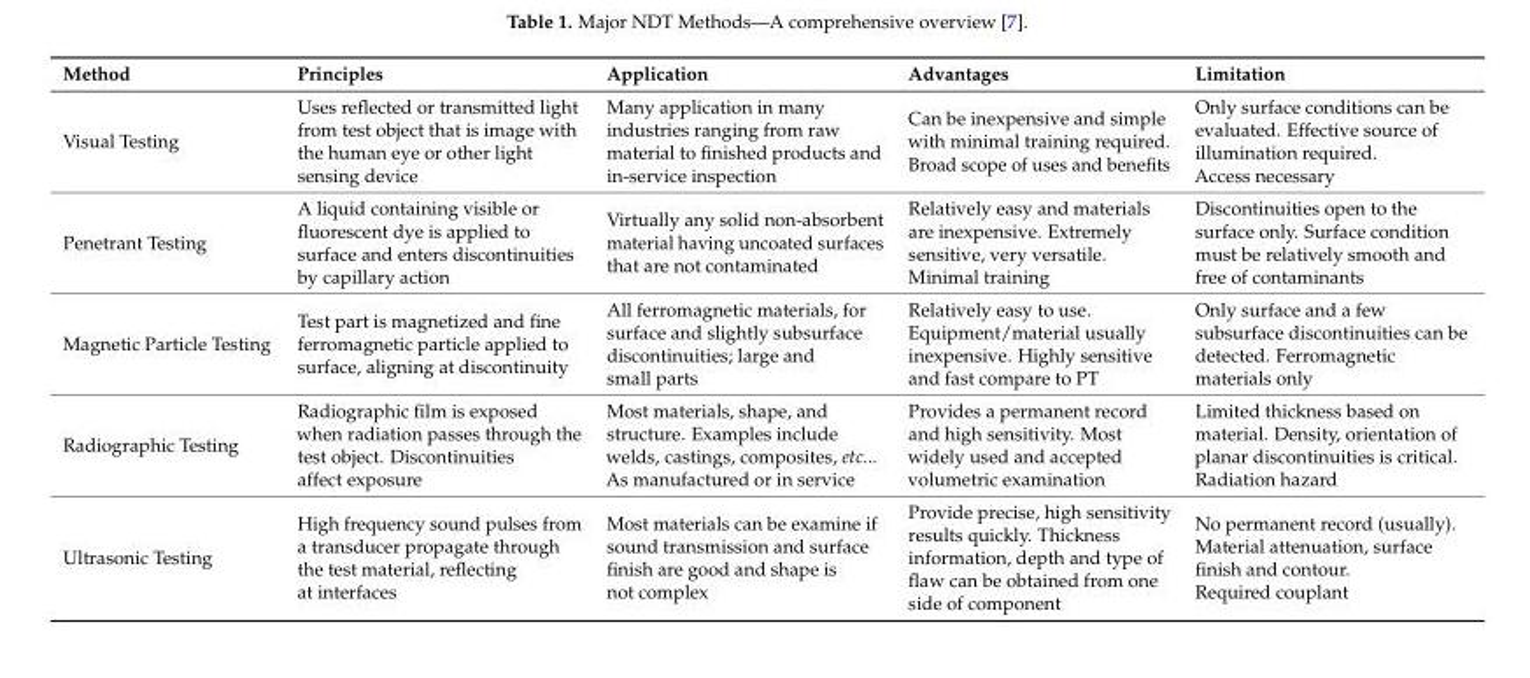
<table><thead><tr><td>Method</td><td>Principles</td><td>Application</td><td>Advantages</td><td>Limitation</td></tr></thead><tbody><tr><td>Visual Testing</td><td>Uses reflected or transmitted light from test object that is image with the human eye or other light sensing device</td><td>Many application in many industries ranging from raw material to finished products and in-service inspection</td><td>Can be inexpensive and simple with minimal training required. Broad scope of uses and benefits</td><td>Only surface conditions can be evaluated. Effective source of illumination required. Access necessary</td></tr><tr><td>Penetrant Testing</td><td>A liquid containing visible or fluorescent dye is applied to surface and enters discontinuities by capillary action</td><td>Virtually any solid non-absorbent material having uncoated surfaces that are not contaminated</td><td>Relatively easy and materials are inexpensive. Extremely sensitive, very versatile. Minimal training</td><td>Discontinuities open to the surface only. Surface condition must be relatively smooth and free of contaminants</td></tr><tr><td>Magnetic Particle Testing</td><td>Test part is magnetized and fine ferromagnetic particle applied to surface, aligning at discontinuity</td><td>All ferromagnetic materials, for surface and slightly subsurface discontinuities; large and small parts</td><td>Relatively easy to use. Equipment/material usually inexpensive. Highly sensitive and fast compare to PT</td><td>Only surface and a few subsurface discontinuities can be detected. Ferromagnetic materials only</td></tr><tr><td>Radiographic Testing</td><td>Radiographic film is exposed when radiation passes through the test object. Discontinuities affect exposure</td><td>Most materials, shape, and structure. Examples include welds, castings, composites, etc... As manufactured or in service</td><td>Provides a permanent record and high sensitivity. Most widely used and accepted volumetric examination</td><td>Limited thickness based on material. Density, orientation of planar discontinuities is critical. Radiation hazard</td></tr><tr><td>Ultrasonic Testing</td><td>High frequency sound pulses from a transducer propagate through the test material, reflecting at interfaces</td><td>Most materials can be examine if sound transmission and surface finish are good and shape is not complex</td><td>Provide precise, high sensitivity results quickly. Thickness information, depth and type of flaw can be obtained from one side of component</td><td>No permanent record (usually). Material attenuation, surface finish and contour. Required couplant</td></tr></tbody></table>